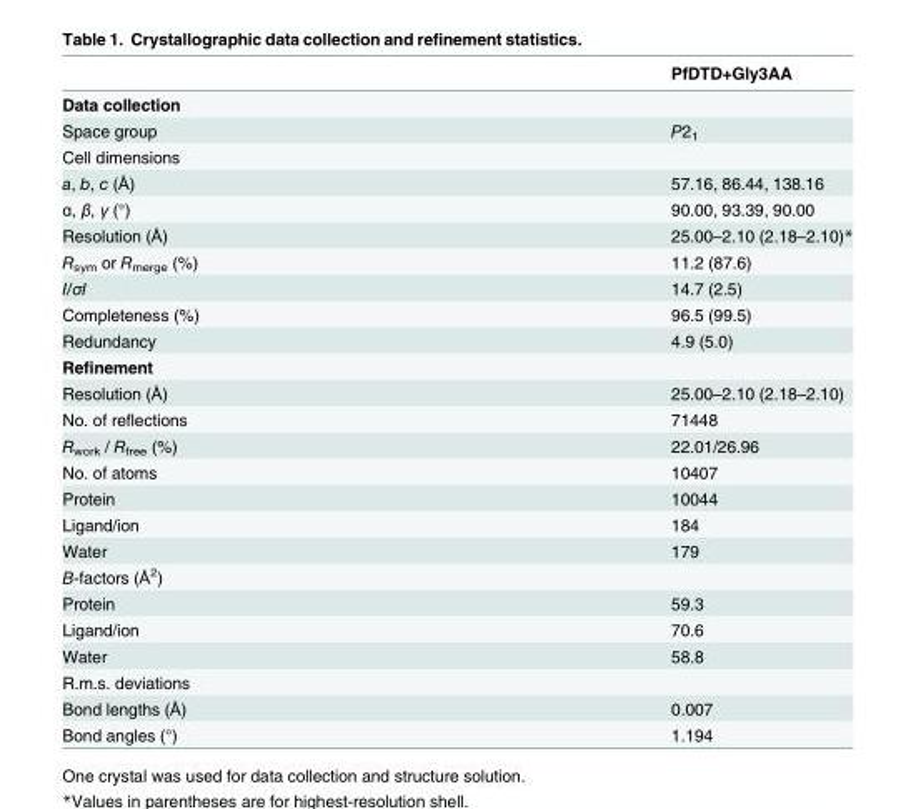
<table><thead><tr><td></td><td>PfDTD+Gly3AA</td></tr></thead><tbody><tr><td colspan="2">Data collection</td></tr><tr><td>Space group</td><td>P2<sub>1</sub></td></tr><tr><td colspan="2">Cell dimensions</td></tr><tr><td>a, b, c (Å)</td><td>57.16, 86.44, 138.16</td></tr><tr><td>ɑ, β, γ (°)</td><td>90.00, 93.39, 90.00</td></tr><tr><td>Resolution (Å)</td><td>25.00–2.10 (2.18–2.10)*</td></tr><tr><td>R<sub>sym</sub> or R<sub>merge</sub> (%)</td><td>11.2 (87.6)</td></tr><tr><td>I/σI</td><td>14.7 (2.5)</td></tr><tr><td>Completeness (%)</td><td>96.5 (99.5)</td></tr><tr><td>Redundancy</td><td>4.9 (5.0)</td></tr><tr><td colspan="2">Refinement</td></tr><tr><td>Resolution (Å)</td><td>25.00–2.10 (2.18–2.10)</td></tr><tr><td>No. of reflections</td><td>71448</td></tr><tr><td>R<sub>work</sub> / R<sub>free</sub> (%)</td><td>22.01/26.96</td></tr><tr><td>No. of atoms</td><td>10407</td></tr><tr><td>Protein</td><td>10044</td></tr><tr><td>Ligand/ion</td><td>184</td></tr><tr><td>Water</td><td>179</td></tr><tr><td colspan="2">B-factors (Å<sup>2</sup>)</td></tr><tr><td>Protein</td><td>59.3</td></tr><tr><td>Ligand/ion</td><td>70.6</td></tr><tr><td>Water</td><td>58.8</td></tr><tr><td colspan="2">R.m.s. deviations</td></tr><tr><td>Bond lengths (Å)</td><td>0.007</td></tr><tr><td>Bond angles (°)</td><td>1.194</td></tr></tbody></table>